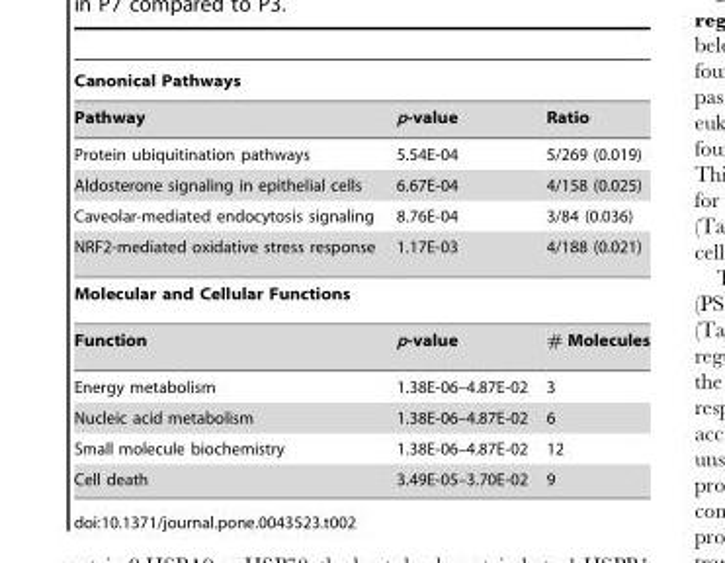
<table><thead><tr><td colspan="3">Canonical Pathways</td></tr><tr><td>Pathway</td><td>p-value</td><td>Ratio</td></tr></thead><tbody><tr><td>Protein ubiquitination pathways</td><td>5.54E-04</td><td>5/269 (0.019)</td></tr><tr><td>Aldosterone signaling in epithelial cells</td><td>6.67E-04</td><td>4/158 (0.025)</td></tr><tr><td>Caveolar-mediated endocytosis signaling</td><td>8.76E-04</td><td>3/84 (0.036)</td></tr><tr><td>NRF2-mediated oxidative stress response</td><td>1.17E-03</td><td>4/188 (0.021)</td></tr><tr><td colspan="3">Molecular and Cellular Functions</td></tr><tr><td>Function</td><td>p-value</td><td># Molecules</td></tr><tr><td>Energy metabolism</td><td>1.38E-06–4.87E-02</td><td>3</td></tr><tr><td>Nucleic acid metabolism</td><td>1.38E-06–4.87E-02</td><td>6</td></tr><tr><td>Small molecule biochemistry</td><td>1.38E-06–4.87E-02</td><td>12</td></tr><tr><td>Cell death</td><td>3.49E-05–3.70E-02</td><td>9</td></tr></tbody></table>